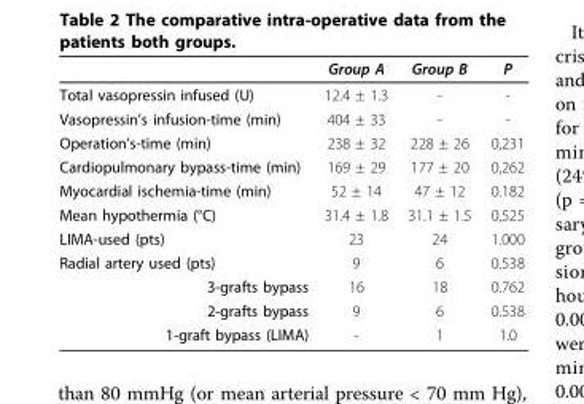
<table><thead><tr><td></td><td>Group A</td><td>Group B</td><td>P</td></tr></thead><tbody><tr><td>Total vasopressin infused (U)</td><td>12.4 ± 1.3</td><td>-</td><td>-</td></tr><tr><td>Vasopressin’s infusion-time (min)</td><td>404 ± 33</td><td>-</td><td>-</td></tr><tr><td>Operation’s-time (min)</td><td>238 ± 32</td><td>228 ± 26</td><td>0,231</td></tr><tr><td>Cardiopulmonary bypass-time (min)</td><td>169 ± 29</td><td>177 ± 20</td><td>0,262</td></tr><tr><td>Myocardial ischemia-time (min)</td><td>52 ± 14</td><td>47 ± 12</td><td>0.182</td></tr><tr><td>Mean hypothermia (°C)</td><td>31.4 ± 1.8</td><td>31.1 ± 1.5</td><td>0,525</td></tr><tr><td>LIMA-used (pts)</td><td>23</td><td>24</td><td>1.000</td></tr><tr><td>Radial artery used (pts)</td><td>9</td><td>6</td><td>0.538</td></tr><tr><td>3-grafts bypass</td><td>16</td><td>18</td><td>0.762</td></tr><tr><td>2-grafts bypass</td><td>9</td><td>6</td><td>0.538</td></tr><tr><td>1-graft bypass (LIMA)</td><td>-</td><td>1</td><td>1.0</td></tr></tbody></table>